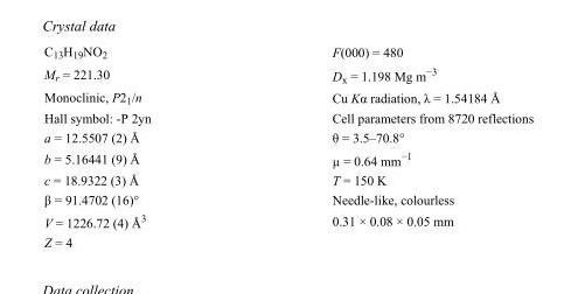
<table><tbody><tr><td>C<sub>13</sub>H<sub>19</sub>NO<sub>2</sub></td><td>F(000) = 480</td></tr><tr><td>M<sub>r</sub> = 221.30</td><td>D<sub>x</sub> = 1.198 Mg m<sup>−3</sup></td></tr><tr><td>Monoclinic, P2<sub>1</sub>/n</td><td>Cu Kα radiation, λ = 1.54184 Å</td></tr><tr><td>Hall symbol: -P 2yn</td><td>Cell parameters from 8720 reflections</td></tr><tr><td>a = 12.5507 (2) Å</td><td>θ = 3.5–70.8°</td></tr><tr><td>b = 5.16441 (9) Å</td><td>µ = 0.64 mm<sup>−1</sup></td></tr><tr><td>c = 18.9322 (3) Å</td><td>T = 150 K</td></tr><tr><td>β = 91.4702 (16)°</td><td>Needle-like, colourless</td></tr><tr><td>V = 1226.72 (4) Å<sup>3</sup></td><td>0.31 × 0.08 × 0.05 mm</td></tr><tr><td>Z = 4</td><td></td></tr></tbody></table>